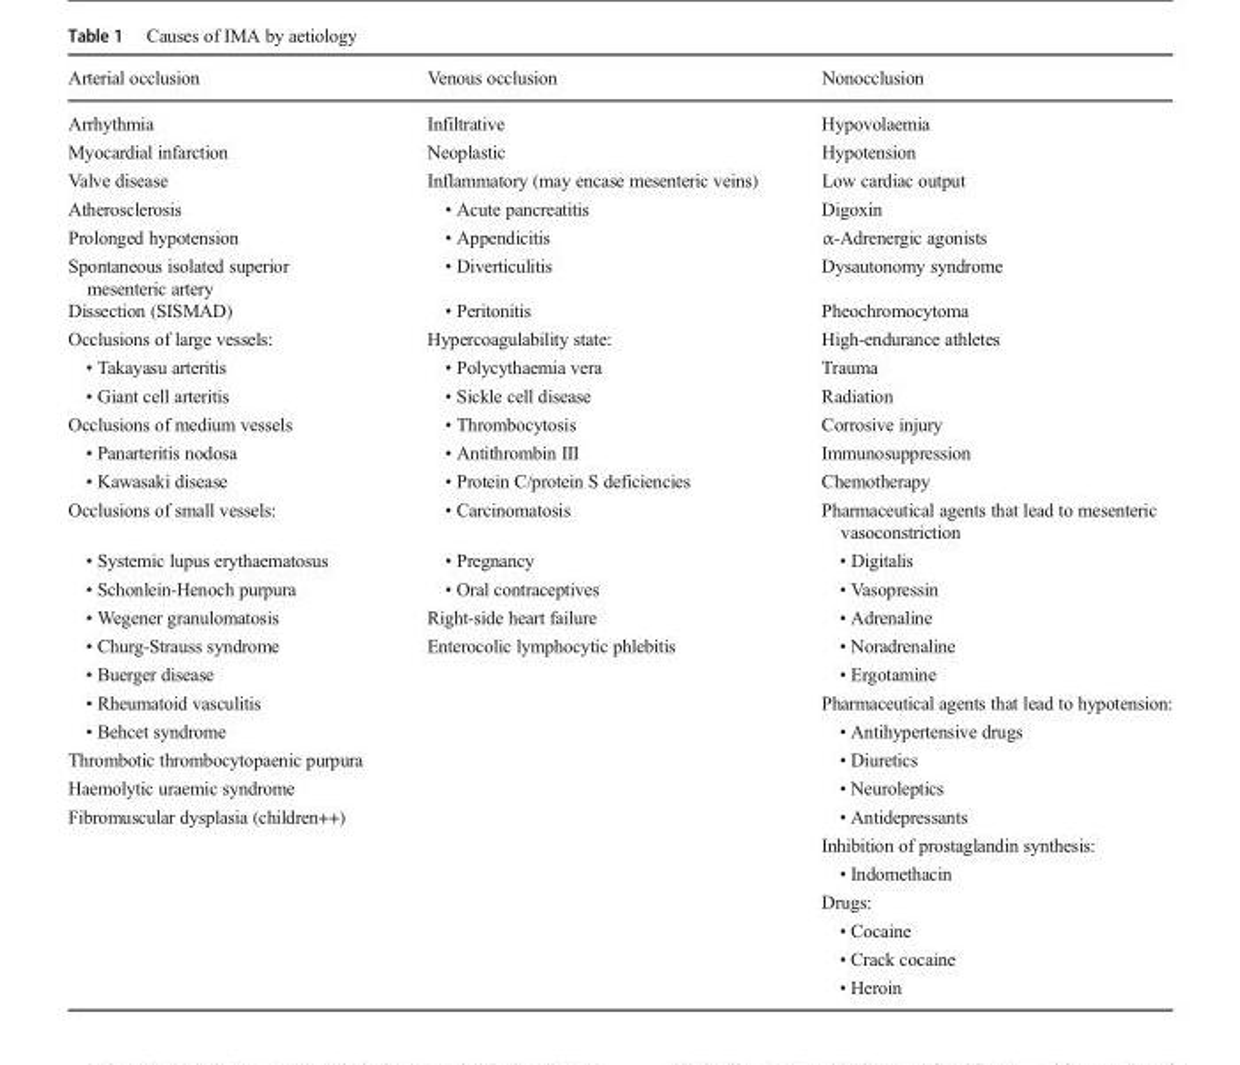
<table><thead><tr><td>Arterial occlusion</td><td>Venous occlusion</td><td>Nonocclusion</td></tr></thead><tbody><tr><td>Arrhythmia</td><td>Infiltrative</td><td>Hypovolaemia</td></tr><tr><td>Myocardial infarction</td><td>Neoplastic</td><td>Hypotension</td></tr><tr><td>Valve disease</td><td>Inflammatory (may encase mesenteric veins)</td><td>Low cardiac output</td></tr><tr><td>Atherosclerosis</td><td>• Acute pancreatitis</td><td>Digoxin</td></tr><tr><td>Prolonged hypotension</td><td>• Appendicitis</td><td>α-Adrenergic agonists</td></tr><tr><td>Spontaneous isolated superior mesenteric artery</td><td>• Diverticulitis</td><td>Dysautonomy syndrome</td></tr><tr><td>Dissection (SISMAD)</td><td>• Peritonitis</td><td>Pheochromocytoma</td></tr><tr><td>Occlusions of large vessels:</td><td>Hypercoagulability state:</td><td>High-endurance athletes</td></tr><tr><td>• Takayasu arteritis</td><td>• Polycythaemia vera</td><td>Trauma</td></tr><tr><td>• Giant cell arteritis</td><td>• Sickle cell disease</td><td>Radiation</td></tr><tr><td>Occlusions of medium vessels</td><td>• Thrombocytosis</td><td>Corrosive injury</td></tr><tr><td>• Panarteritis nodosa</td><td>• Antithrombin III</td><td>Immunosuppression</td></tr><tr><td>• Kawasaki disease</td><td>• Protein C/protein S deficiencies</td><td>Chemotherapy</td></tr><tr><td>Occlusions of small vessels:</td><td>• Carcinomatosis</td><td>Pharmaceutical agents that lead to mesenteric vasoconstriction</td></tr><tr><td>• Systemic lupus erythaematosus</td><td>• Pregnancy</td><td>• Digitalis</td></tr><tr><td>• Schonlein-Henoch purpura</td><td>• Oral contraceptives</td><td>• Vasopressin</td></tr><tr><td>• Wegener granulomatosis</td><td>Right-side heart failure</td><td>• Adrenaline</td></tr><tr><td>• Churg-Strauss syndrome</td><td>Enterocolic lymphocytic phlebitis</td><td>• Noradrenaline</td></tr><tr><td>• Buerger disease</td><td></td><td>• Ergotamine</td></tr><tr><td>• Rheumatoid vasculitis</td><td></td><td>Pharmaceutical agents that lead to hypotension:</td></tr><tr><td>• Behcet syndrome</td><td></td><td>• Antihypertensive drugs</td></tr><tr><td>Thrombotic thrombocytopaenic purpura</td><td></td><td>• Diuretics</td></tr><tr><td>Haemolytic uraemic syndrome</td><td></td><td>• Neuroleptics</td></tr><tr><td rowspan="7">Fibromuscular dysplasia (children++)</td><td></td><td>• Antidepressants</td></tr><tr><td></td><td>Inhibition of prostaglandin synthesis:</td></tr><tr><td></td><td>• Indomethacin</td></tr><tr><td></td><td>Drugs:</td></tr><tr><td></td><td>• Cocaine</td></tr><tr><td></td><td>• Crack cocaine</td></tr><tr><td></td><td>• Heroin</td></tr></tbody></table>